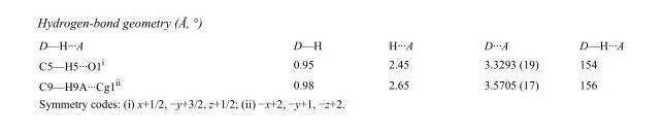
<table><tbody><tr><td>D—H···A</td><td>D—H</td><td>H···A</td><td>D···A</td><td>D—H···A</td></tr><tr><td>C5—H5···O1<sup>i</sup></td><td>0.95</td><td>2.45</td><td>3.3293 (19)</td><td>154</td></tr><tr><td>C9—H9A···Cg1<sup>ii</sup></td><td>0.98</td><td>2.65</td><td>3.5705 (17)</td><td>156</td></tr></tbody></table>